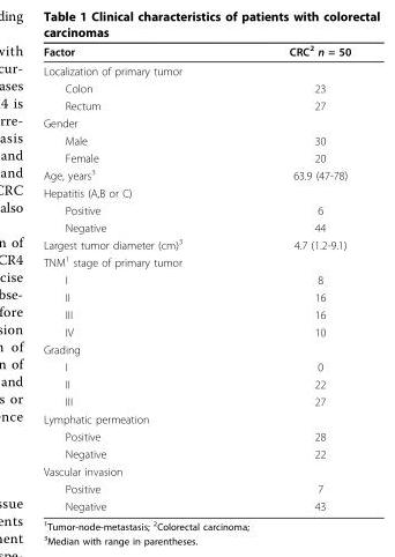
<table><thead><tr><td>Factor</td><td>CRC<sup>2</sup> n = 50</td></tr></thead><tbody><tr><td colspan="2">Localization of primary tumor</td></tr><tr><td>Colon</td><td>23</td></tr><tr><td>Rectum</td><td>27</td></tr><tr><td colspan="2">Gender</td></tr><tr><td>Male</td><td>30</td></tr><tr><td>Female</td><td>20</td></tr><tr><td>Age, years<sup>3</sup></td><td>63.9 (47-78)</td></tr><tr><td colspan="2">Hepatitis (A,B or C)</td></tr><tr><td>Positive</td><td>6</td></tr><tr><td>Negative</td><td>44</td></tr><tr><td>Largest tumor diameter (cm)<sup>3</sup></td><td>4.7 (1.2-9.1)</td></tr><tr><td colspan="2">TNM<sup>1</sup> stage of primary tumor</td></tr><tr><td>I</td><td>8</td></tr><tr><td>II</td><td>16</td></tr><tr><td>III</td><td>16</td></tr><tr><td>IV</td><td>10</td></tr><tr><td colspan="2">Grading</td></tr><tr><td>I</td><td>0</td></tr><tr><td>II</td><td>22</td></tr><tr><td>III</td><td>27</td></tr><tr><td colspan="2">Lymphatic permeation</td></tr><tr><td>Positive</td><td>28</td></tr><tr><td>Negative</td><td>22</td></tr><tr><td colspan="2">Vascular invasion</td></tr><tr><td>Positive</td><td>7</td></tr><tr><td>Negative</td><td>43</td></tr></tbody></table>